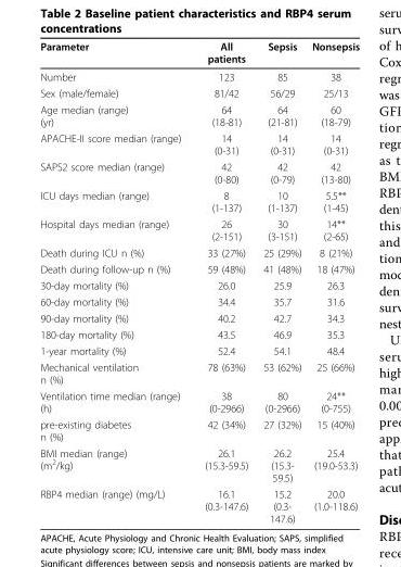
<table><thead><tr><td>Parameter</td><td>All patients</td><td>Sepsis</td><td>Nonsepsis</td></tr></thead><tbody><tr><td>Number</td><td>123</td><td>85</td><td>38</td></tr><tr><td>Sex (male/female)</td><td>81/42</td><td>56/29</td><td>25/13</td></tr><tr><td>Age median (range) (yr)</td><td>64 (18-81)</td><td>64 (21-81)</td><td>60 (18-79)</td></tr><tr><td>APACHE-II score median (range)</td><td>14 (0-31)</td><td>14 (0-31)</td><td>14 (0-31)</td></tr><tr><td>SAPS2 score median (range)</td><td>42 (0-80)</td><td>42 (0-79)</td><td>42 (13-80)</td></tr><tr><td>ICU days median (range)</td><td>8 (1-137)</td><td>10 (1-137)</td><td>5.5** (1-45)</td></tr><tr><td>Hospital days median (range)</td><td>26 (2-151)</td><td>30 (3-151)</td><td>14** (2-65)</td></tr><tr><td>Death during ICU n (%)</td><td>33 (27%)</td><td>25 (29%)</td><td>8 (21%)</td></tr><tr><td>Death during follow-up n (%)</td><td>59 (48%)</td><td>41 (48%)</td><td>18 (47%)</td></tr><tr><td>30-day mortality (%)</td><td>26.0</td><td>25.9</td><td>26.3</td></tr><tr><td>60-day mortality (%)</td><td>34.4</td><td>35.7</td><td>31.6</td></tr><tr><td>90-day mortality (%)</td><td>40.2</td><td>42.7</td><td>34.3</td></tr><tr><td>180-day mortality (%)</td><td>43.5</td><td>46.9</td><td>35.3</td></tr><tr><td>1-year mortality (%)</td><td>52.4</td><td>54.1</td><td>48.4</td></tr><tr><td>Mechanical ventilation n (%)</td><td>78 (63%)</td><td>53 (62%)</td><td>25 (66%)</td></tr><tr><td>Ventilation time median (range) (h)</td><td>38 (0-2966)</td><td>80 (0-2966)</td><td>24** (0-755)</td></tr><tr><td>pre-existing diabetes n (%)</td><td>42 (34%)</td><td>27 (32%)</td><td>15 (40%)</td></tr><tr><td>BMI median (range) (m<sup>2</sup>/kg)</td><td>26.1 (15.3-59.5)</td><td>26.2 (15.3- 59.5)</td><td>25.4 (19.0-53.3)</td></tr><tr><td>RBP4 median (range) (mg/L)</td><td>16.1 (0.3-147.6)</td><td>15.2 (0.3- 147.6)</td><td>20.0 (1.0-118.6)</td></tr></tbody></table>